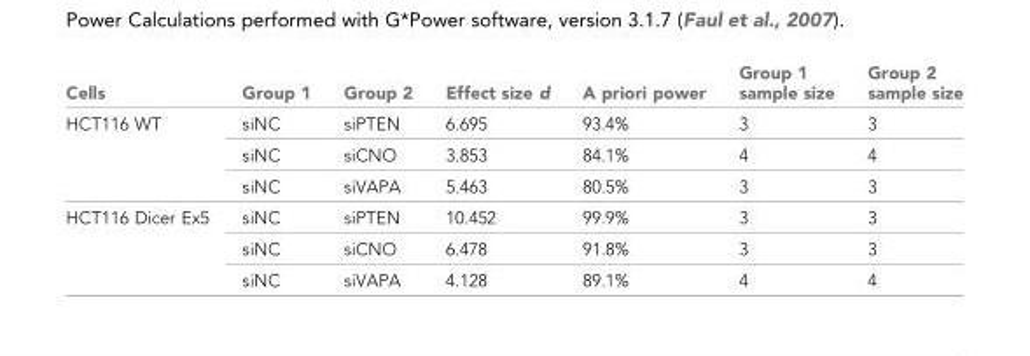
<table><thead><tr><td>Cells</td><td>Group 1</td><td>Group 2</td><td>Effect size d</td><td>A priori power</td><td>Group 1 sample size</td><td>Group 2 sample size</td></tr></thead><tbody><tr><td rowspan="3">HCT116 WT</td><td>siNC</td><td>siPTEN</td><td>6.695</td><td>93.4%</td><td>3</td><td>3</td></tr><tr><td>siNC</td><td>siCNO</td><td>3.853</td><td>84.1%</td><td>4</td><td>4</td></tr><tr><td>siNC</td><td>siVAPA</td><td>5.463</td><td>80.5%</td><td>3</td><td>3</td></tr><tr><td rowspan="3">HCT116 Dicer Ex5</td><td>siNC</td><td>siPTEN</td><td>10.452</td><td>99.9%</td><td>3</td><td>3</td></tr><tr><td>siNC</td><td>siCNO</td><td>6.478</td><td>91.8%</td><td>3</td><td>3</td></tr><tr><td>siNC</td><td>siVAPA</td><td>4.128</td><td>89.1%</td><td>4</td><td>4</td></tr></tbody></table>